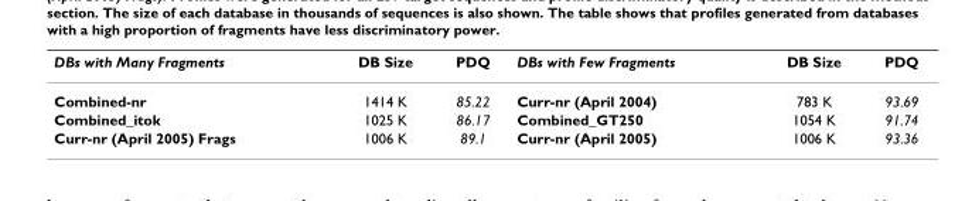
<table><thead><tr><td>DBs with Many Fragments</td><td>DB Size</td><td>PDQ</td><td>DBs with Few Fragments</td><td>DB Size</td><td>PDQ</td></tr></thead><tbody><tr><td>Combined-nr</td><td>1414 K</td><td>85.22</td><td>Curr-nr (April 2004)</td><td>783 K</td><td>93.69</td></tr><tr><td>Combined_itok</td><td>1025 K</td><td>86.17</td><td>Combined_GT250</td><td>1054 K</td><td>91.74</td></tr><tr><td>Curr-nr (April 2005) Frags</td><td>1006 K</td><td>89.1</td><td>Curr-nr (April 2005)</td><td>1006 K</td><td>93.36</td></tr></tbody></table>